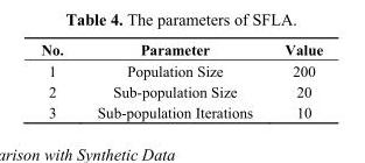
<table><thead><tr><td>No.</td><td>Parameter</td><td>Value</td></tr></thead><tbody><tr><td>1</td><td>Population Size</td><td>200</td></tr><tr><td>2</td><td>Sub-population Size</td><td>20</td></tr><tr><td>3</td><td>Sub-population Iterations</td><td>10</td></tr></tbody></table>